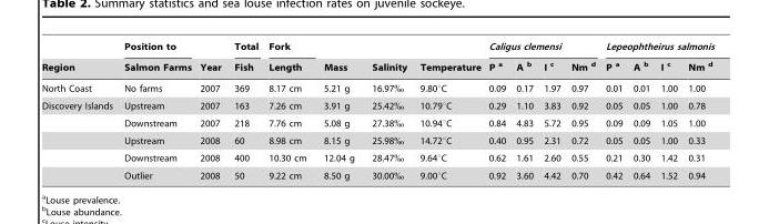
<table><thead><tr><td rowspan="2">Region</td><td rowspan="2">Position to Salmon Farms</td><td rowspan="2">Year</td><td rowspan="2">Total Fish</td><td rowspan="2">Fork Length</td><td rowspan="2">Mass</td><td rowspan="2">Salinity</td><td rowspan="2">Temperature</td><td colspan="4">Caligus clemensi</td><td colspan="4">Lepeophtheirus salmonis</td></tr><tr><td>P <sup>a</sup></td><td>A b</td><td>I c</td><td>Nm d</td><td>P <sup>a</sup></td><td>A b</td><td>I c</td><td>Nm d</td></tr></thead><tbody><tr><td>North Coast</td><td>No farms</td><td>2007</td><td>369</td><td>8.17 cm</td><td>5.21 g</td><td>16.97‰</td><td>9.80°C</td><td>0.09</td><td>0.17</td><td>1.97</td><td>0.97</td><td>0.01</td><td>0.01</td><td>1.00</td><td>1.00</td></tr><tr><td rowspan="5">Discovery Islands</td><td>Upstream</td><td>2007</td><td>163</td><td>7.26 cm</td><td>3.91 g</td><td>25.42‰</td><td>10.79°C</td><td>0.29</td><td>1.10</td><td>3.83</td><td>0.92</td><td>0.05</td><td>0.05</td><td>1.00</td><td>0.78</td></tr><tr><td>Downstream</td><td>2007</td><td>218</td><td>7.76 cm</td><td>5.08 g</td><td>27.38‰</td><td>10.94°C</td><td>0.84</td><td>4.83</td><td>5.72</td><td>0.95</td><td>0.09</td><td>0.09</td><td>1.05</td><td>1.00</td></tr><tr><td>Upstream</td><td>2008</td><td>60</td><td>8.98 cm</td><td>8.15 g</td><td>25.98‰</td><td>14.72°C</td><td>0.40</td><td>0.95</td><td>2.31</td><td>0.72</td><td>0.05</td><td>0.05</td><td>1.00</td><td>0.33</td></tr><tr><td>Downstream</td><td>2008</td><td>400</td><td>10.30 cm</td><td>12.04 g</td><td>28.47‰</td><td>9.64°C</td><td>0.62</td><td>1.61</td><td>2.60</td><td>0.55</td><td>0.21</td><td>0.30</td><td>1.42</td><td>0.31</td></tr><tr><td>Outlier</td><td>2008</td><td>50</td><td>9.22 cm</td><td>8.50 g</td><td>30.00‰</td><td>9.00°C</td><td>0.92</td><td>3.60</td><td>4.42</td><td>0.70</td><td>0.42</td><td>0.64</td><td>1.52</td><td>0.94</td></tr></tbody></table>